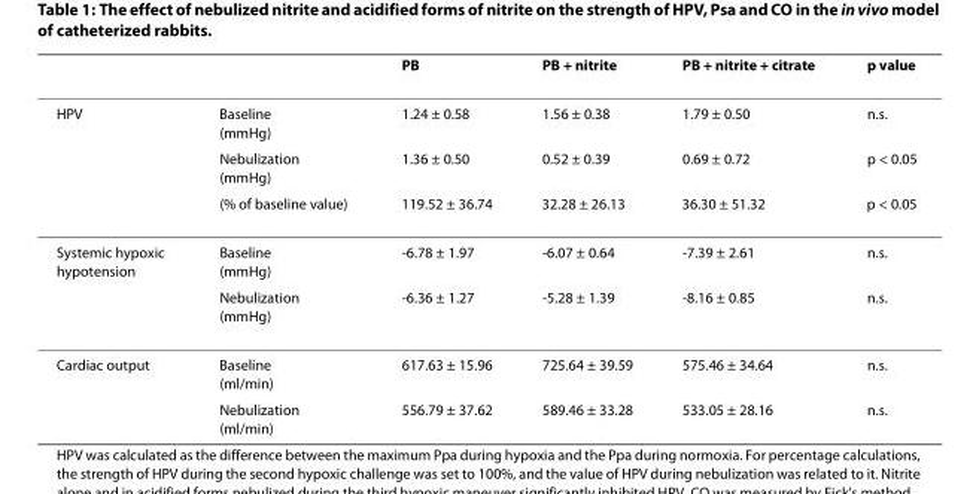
<table><thead><tr><td></td><td></td><td>PB</td><td>PB + nitrite</td><td>PB + nitrite + citrate</td><td>p value</td></tr></thead><tbody><tr><td rowspan="3">HPV</td><td>Baseline (mmHg)</td><td>1.24 ± 0.58</td><td>1.56 ± 0.38</td><td>1.79 ± 0.50</td><td>n.s.</td></tr><tr><td>Nebulization (mmHg)</td><td>1.36 ± 0.50</td><td>0.52 ± 0.39</td><td>0.69 ± 0.72</td><td>p &lt; 0.05</td></tr><tr><td>(% of baseline value)</td><td>119.52 ± 36.74</td><td>32.28 ± 26.13</td><td>36.30 ± 51.32</td><td>p &lt; 0.05</td></tr><tr><td rowspan="2">Systemic hypoxic hypotension</td><td>Baseline (mmHg)</td><td>-6.78 ± 1.97</td><td>-6.07 ± 0.64</td><td>-7.39 ± 2.61</td><td>n.s.</td></tr><tr><td>Nebulization (mmHg)</td><td>-6.36 ± 1.27</td><td>-5.28 ± 1.39</td><td>-8.16 ± 0.85</td><td>n.s.</td></tr><tr><td rowspan="2">Cardiac output</td><td>Baseline (ml/min)</td><td>617.63 ± 15.96</td><td>725.64 ± 39.59</td><td>575.46 ± 34.64</td><td>n.s.</td></tr><tr><td>Nebulization (ml/min)</td><td>556.79 ± 37.62</td><td>589.46 ± 33.28</td><td>533.05 ± 28.16</td><td>n.s.</td></tr></tbody></table>